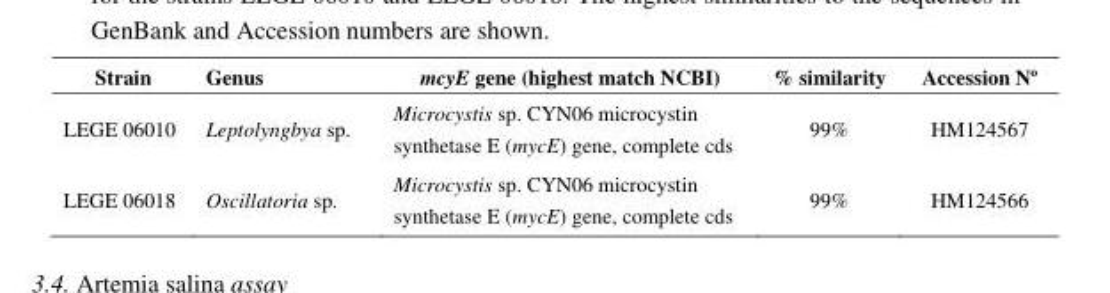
<table><thead><tr><td>Strain</td><td>Genus</td><td>mcyE gene (highest match NCBI)</td><td>% similarity</td><td>Accession Nº</td></tr></thead><tbody><tr><td>LEGE 06010</td><td>Leptolyngbya sp.</td><td>Microcystis sp. CYN06 microcystin synthetase E (mycE) gene, complete cds</td><td>99%</td><td>HM124567</td></tr><tr><td>LEGE 06018</td><td>Oscillatoria sp.</td><td>Microcystis sp. CYN06 microcystin synthetase E (mycE) gene, complete cds</td><td>99%</td><td>HM124566</td></tr></tbody></table>